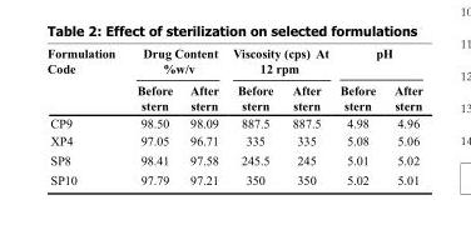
<table><thead><tr><td rowspan="2">Formulation Code</td><td colspan="2">Drug Content %w/v</td><td colspan="2">Viscosity (cps) At 12 rpm</td><td colspan="2">pH</td></tr><tr><td>Before stern</td><td>After stern</td><td>Before stern</td><td>After stern</td><td>Before stern</td><td>After stern</td></tr></thead><tbody><tr><td>CP9</td><td>98.50</td><td>98.09</td><td>887.5</td><td>887.5</td><td>4.98</td><td>4.96</td></tr><tr><td>XP4</td><td>97.05</td><td>96.71</td><td>335</td><td>335</td><td>5.08</td><td>5.06</td></tr><tr><td>SP8</td><td>98.41</td><td>97.58</td><td>245.5</td><td>245</td><td>5.01</td><td>5.02</td></tr><tr><td>SP10</td><td>97.79</td><td>97.21</td><td>350</td><td>350</td><td>5.02</td><td>5.01</td></tr></tbody></table>